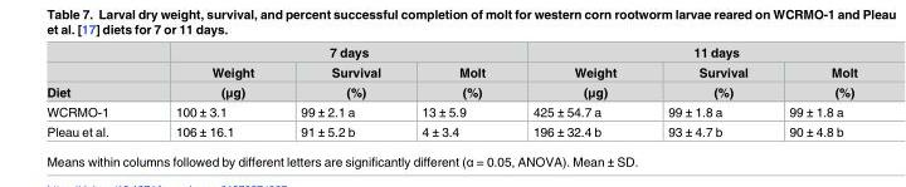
<table><thead><tr><td rowspan="3">Diet</td><td colspan="3">7 days</td><td colspan="3">11 days</td></tr><tr><td rowspan="2">Weight (μg)</td><td rowspan="2">Survival (%)</td><td rowspan="2">Molt (%)</td><td rowspan="2">Weight (μg)</td><td rowspan="2">Survival (%)</td><td rowspan="2">Molt (%)</td></tr><tr></tr></thead><tbody><tr><td>WCRMO-1</td><td>100 ± 3.1</td><td>99 ± 2.1 a</td><td>13 ± 5.9</td><td>425 ± 54.7 a</td><td>99 ± 1.8 a</td><td>99 ± 1.8 a</td></tr><tr><td>Pleau et al.</td><td>106 ± 16.1</td><td>91 ± 5.2 b</td><td>4 ± 3.4</td><td>196 ± 32.4 b</td><td>93 ± 4.7 b</td><td>90 ± 4.8 b</td></tr></tbody></table>